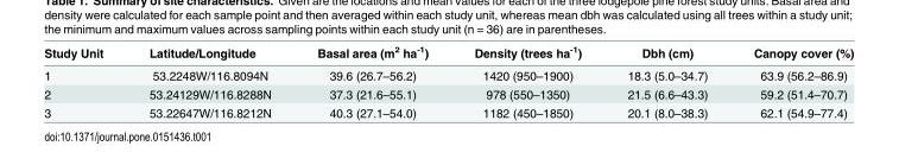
<table><thead><tr><td>Study Unit</td><td>Latitude/Longitude</td><td>Basal area (m<sup>2</sup> ha<sup>-1</sup>)</td><td>Density (trees ha<sup>-1</sup>)</td><td>Dbh (cm)</td><td>Canopy cover (%)</td></tr></thead><tbody><tr><td>1</td><td>53.2248W/116.8094N</td><td>39.6 (26.7–56.2)</td><td>1420 (950–1900)</td><td>18.3 (5.0–34.7)</td><td>63.9 (56.2–86.9)</td></tr><tr><td>2</td><td>53.24129W/116.8288N</td><td>37.3 (21.6–55.1)</td><td>978 (550–1350)</td><td>21.5 (6.6–43.3)</td><td>59.2 (51.4–70.7)</td></tr><tr><td>3</td><td>53.22647W/116.8212N</td><td>40.3 (27.1–54.0)</td><td>1182 (450–1850)</td><td>20.1 (8.0–38.3)</td><td>62.1 (54.9–77.4)</td></tr></tbody></table>